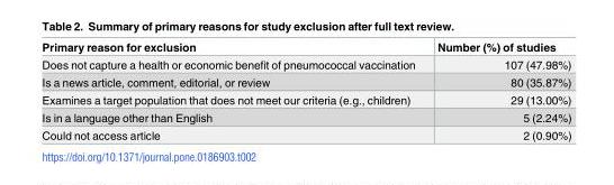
<table><thead><tr><td>Primary reason for exclusion</td><td>Number (%) of studies</td></tr></thead><tbody><tr><td>Does not capture a health or economic benefit of pneumococcal vaccination</td><td>107 (47.98%)</td></tr><tr><td>Is a news article, comment, editorial, or review</td><td>80 (35.87%)</td></tr><tr><td>Examines a target population that does not meet our criteria (e.g., children)</td><td>29 (13.00%)</td></tr><tr><td>Is in a language other than English</td><td>5 (2.24%)</td></tr><tr><td>Could not access article</td><td>2 (0.90%)</td></tr></tbody></table>